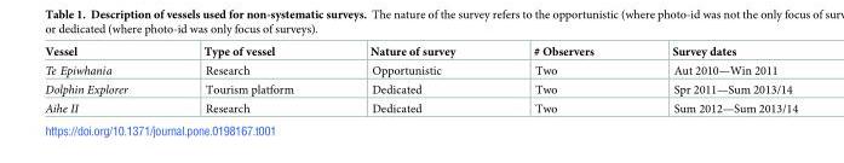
<table><thead><tr><td>Vessel</td><td>Type of vessel</td><td>Nature of survey</td><td># Observers</td><td>Survey dates</td></tr></thead><tbody><tr><td>Te Epiwhania</td><td>Research</td><td>Opportunistic</td><td>Two</td><td>Aut 2010—Win 2011</td></tr><tr><td>Dolphin Explorer</td><td>Tourism platform</td><td>Dedicated</td><td>Two</td><td>Spr 2011—Sum 2013/14</td></tr><tr><td>Aihe II</td><td>Research</td><td>Dedicated</td><td>Two</td><td>Sum 2012—Sum 2013/14</td></tr></tbody></table>